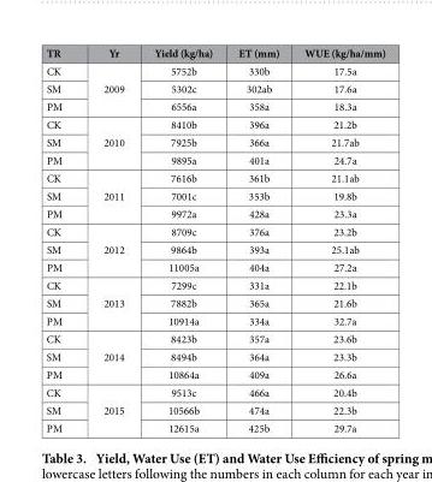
<table><thead><tr><td>TR</td><td>Yr</td><td>Yield (kg/ha)</td><td>ET (mm)</td><td>WUE (kg/ha/mm)</td></tr></thead><tbody><tr><td>CK</td><td rowspan="3">2009</td><td>5752b</td><td>330b</td><td>17.5a</td></tr><tr><td>SM</td><td>5302c</td><td>302ab</td><td>17.6a</td></tr><tr><td>PM</td><td>6556a</td><td>358a</td><td>18.3a</td></tr><tr><td>CK</td><td rowspan="3">2010</td><td>8410b</td><td>396a</td><td>21.2b</td></tr><tr><td>SM</td><td>7925b</td><td>366a</td><td>21.7ab</td></tr><tr><td>PM</td><td>9895a</td><td>401a</td><td>24.7a</td></tr><tr><td>CK</td><td rowspan="3">2011</td><td>7616b</td><td>361b</td><td>21.1ab</td></tr><tr><td>SM</td><td>7001c</td><td>353b</td><td>19.8b</td></tr><tr><td>PM</td><td>9972a</td><td>428a</td><td>23.3a</td></tr><tr><td>CK</td><td rowspan="3">2012</td><td>8709c</td><td>376a</td><td>23.2b</td></tr><tr><td>SM</td><td>9864b</td><td>393a</td><td>25.1ab</td></tr><tr><td>PM</td><td>11005a</td><td>404a</td><td>27.2a</td></tr><tr><td>CK</td><td rowspan="3">2013</td><td>7299c</td><td>331a</td><td>22.1b</td></tr><tr><td>SM</td><td>7882b</td><td>365a</td><td>21.6b</td></tr><tr><td>PM</td><td>10914a</td><td>334a</td><td>32.7a</td></tr><tr><td>CK</td><td rowspan="3">2014</td><td>8423b</td><td>357a</td><td>23.6b</td></tr><tr><td>SM</td><td>8494b</td><td>364a</td><td>23.3b</td></tr><tr><td>PM</td><td>10864a</td><td>409a</td><td>26.6a</td></tr><tr><td>CK</td><td rowspan="3">2015</td><td>9513c</td><td>466a</td><td>20.4b</td></tr><tr><td>SM</td><td>10566b</td><td>474a</td><td>22.3b</td></tr><tr><td>PM</td><td>12615a</td><td>425b</td><td>29.7a</td></tr></tbody></table>